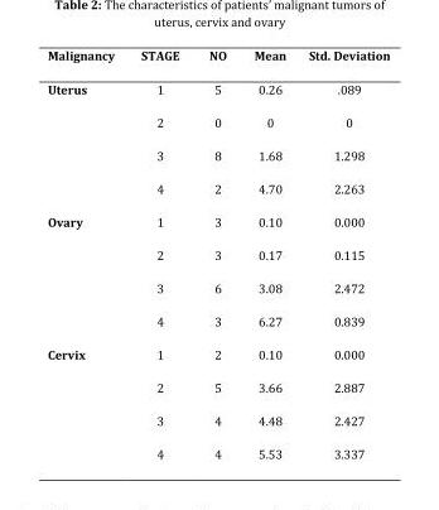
<table><thead><tr><td>Malignancy</td><td>STAGE</td><td>NO</td><td>Mean</td><td>Std. Deviation</td></tr></thead><tbody><tr><td rowspan="4">Uterus</td><td>1</td><td>5</td><td>0.26</td><td>.089</td></tr><tr><td>2</td><td>0</td><td>0</td><td>0</td></tr><tr><td>3</td><td>8</td><td>1.68</td><td>1.298</td></tr><tr><td>4</td><td>2</td><td>4.70</td><td>2.263</td></tr><tr><td rowspan="4">Ovary</td><td>1</td><td>3</td><td>0.10</td><td>0.000</td></tr><tr><td>2</td><td>3</td><td>0.17</td><td>0.115</td></tr><tr><td>3</td><td>6</td><td>3.08</td><td>2.472</td></tr><tr><td>4</td><td>3</td><td>6.27</td><td>0.839</td></tr><tr><td rowspan="4">Cervix</td><td>1</td><td>2</td><td>0.10</td><td>0.000</td></tr><tr><td>2</td><td>5</td><td>3.66</td><td>2.887</td></tr><tr><td>3</td><td>4</td><td>4.48</td><td>2.427</td></tr><tr><td>4</td><td>4</td><td>5.53</td><td>3.337</td></tr></tbody></table>